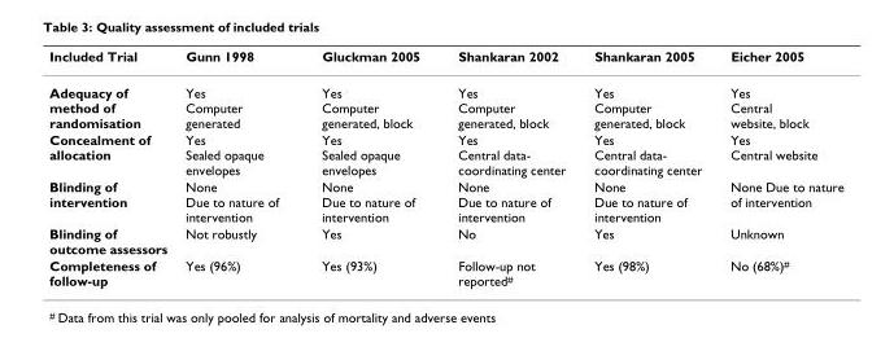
<table><thead><tr><td>Included Trial</td><td>Gunn 1998</td><td>Gluckman 2005</td><td>Shankaran 2002</td><td>Shankaran 2005</td><td>Eicher 2005</td></tr></thead><tbody><tr><td>Adequacy of method of randomisation</td><td>Yes Computer generated</td><td>Yes Computer generated, block</td><td>Yes Computer generated, block</td><td>Yes Computer generated, block</td><td>Yes Central website, block</td></tr><tr><td>Concealment of allocation</td><td>Yes Sealed opaque envelopes</td><td>Yes Sealed opaque envelopes</td><td>Yes Central data- coordinating center</td><td>Yes Central data- coordinating center</td><td>Yes Central website</td></tr><tr><td>Blinding of intervention</td><td>None Due to nature of intervention</td><td>None Due to nature of intervention</td><td>None Due to nature of intervention</td><td>None Due to nature of intervention</td><td>None Due to nature of intervention</td></tr><tr><td>Blinding of outcome assessors</td><td>Not robustly</td><td>Yes</td><td>No</td><td>Yes</td><td>Unknown</td></tr><tr><td>Completeness of follow-up</td><td>Yes (96%)</td><td>Yes (93%)</td><td>Follow-up not reported<sup>#</sup></td><td>Yes (98%)</td><td>No (68%)<sup>#</sup></td></tr></tbody></table>